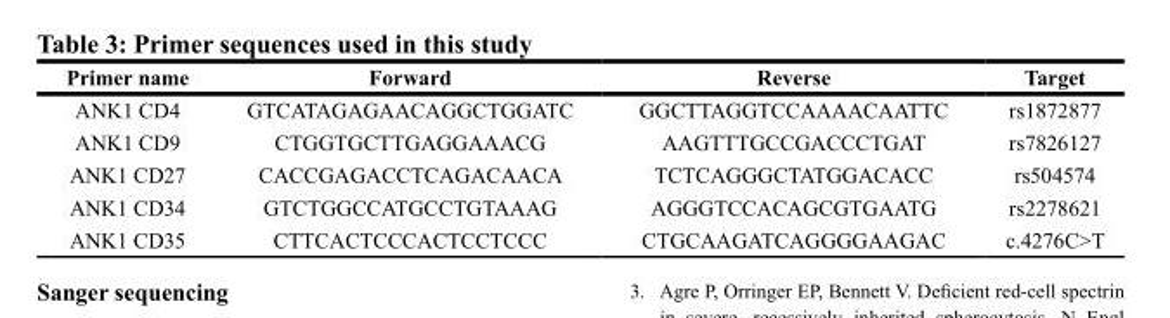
<table><thead><tr><td>Primer name</td><td>Forward</td><td>Reverse</td><td>Target</td></tr></thead><tbody><tr><td>ANK1 CD4</td><td>GTCATAGAGAACAGGCTGGATC</td><td>GGCTTAGGTCCAAAACAATTC</td><td>rs1872877</td></tr><tr><td>ANK1 CD9</td><td>CTGGTGCTTGAGGAAACG</td><td>AAGTTTGCCGACCCTGAT</td><td>rs7826127</td></tr><tr><td>ANK1 CD27</td><td>CACCGAGACCTCAGACAACA</td><td>TCTCAGGGCTATGGACACC</td><td>rs504574</td></tr><tr><td>ANK1 CD34</td><td>GTCTGGCCATGCCTGTAAAG</td><td>AGGGTCCACAGCGTGAATG</td><td>rs2278621</td></tr><tr><td>ANK1 CD35</td><td>CTTCACTCCCACTCCTCCC</td><td>CTGCAAGATCAGGGGAAGAC</td><td>c.4276C&gt;T</td></tr></tbody></table>